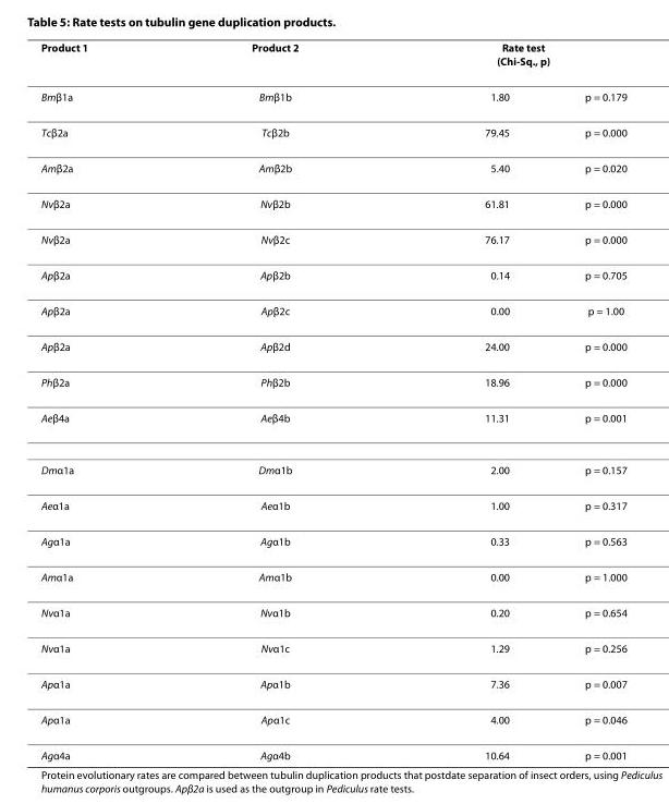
<table><thead><tr><td rowspan="2">Product 1 Bmβ1a</td><td rowspan="2">Product 2 Bmβ1b</td><td colspan="2">Rate test (Chi-Sq., p)</td></tr><tr><td>1.80</td><td>p = 0.179</td></tr></thead><tbody><tr><td>Tcβ2a</td><td>Tcβ2b</td><td>79.45</td><td>p = 0.000</td></tr><tr><td>Amβ2a</td><td>Amβ2b</td><td>5.40</td><td>p = 0.020</td></tr><tr><td>Nvβ2a</td><td>Nvβ2b</td><td>61.81</td><td>p = 0.000</td></tr><tr><td>Nvβ2a</td><td>Nvβ2c</td><td>76.17</td><td>p = 0.000</td></tr><tr><td>Apβ2a</td><td>Apβ2b</td><td>0.14</td><td>p = 0.705</td></tr><tr><td>Apβ2a</td><td>Apβ2c</td><td>0.00</td><td>p = 1.00</td></tr><tr><td>Apβ2a</td><td>Apβ2d</td><td>24.00</td><td>p = 0.000</td></tr><tr><td>Phβ2a</td><td>Phβ2b</td><td>18.96</td><td>p = 0.000</td></tr><tr><td>Aeβ4a</td><td>Aeβ4b</td><td>11.31</td><td>p = 0.001</td></tr><tr><td>Dmα1a</td><td>Dmα1b</td><td>2.00</td><td>p = 0.157</td></tr><tr><td>Aeα1a</td><td>Aeα1b</td><td>1.00</td><td>p = 0.317</td></tr><tr><td>Agα1a</td><td>Agα1b</td><td>0.33</td><td>p = 0.563</td></tr><tr><td>Amα1a</td><td>Amα1b</td><td>0.00</td><td>p = 1.000</td></tr><tr><td>Nvα1a</td><td>Nvα1b</td><td>0.20</td><td>p = 0.654</td></tr><tr><td>Nvα1a</td><td>Nvα1c</td><td>1.29</td><td>p = 0.256</td></tr><tr><td>Apα1a</td><td>Apα1b</td><td>7.36</td><td>p = 0.007</td></tr><tr><td>Apα1a</td><td>Apα1c</td><td>4.00</td><td>p = 0.046</td></tr><tr><td>Agα4a</td><td>Agα4b</td><td>10.64</td><td>p = 0.001</td></tr></tbody></table>